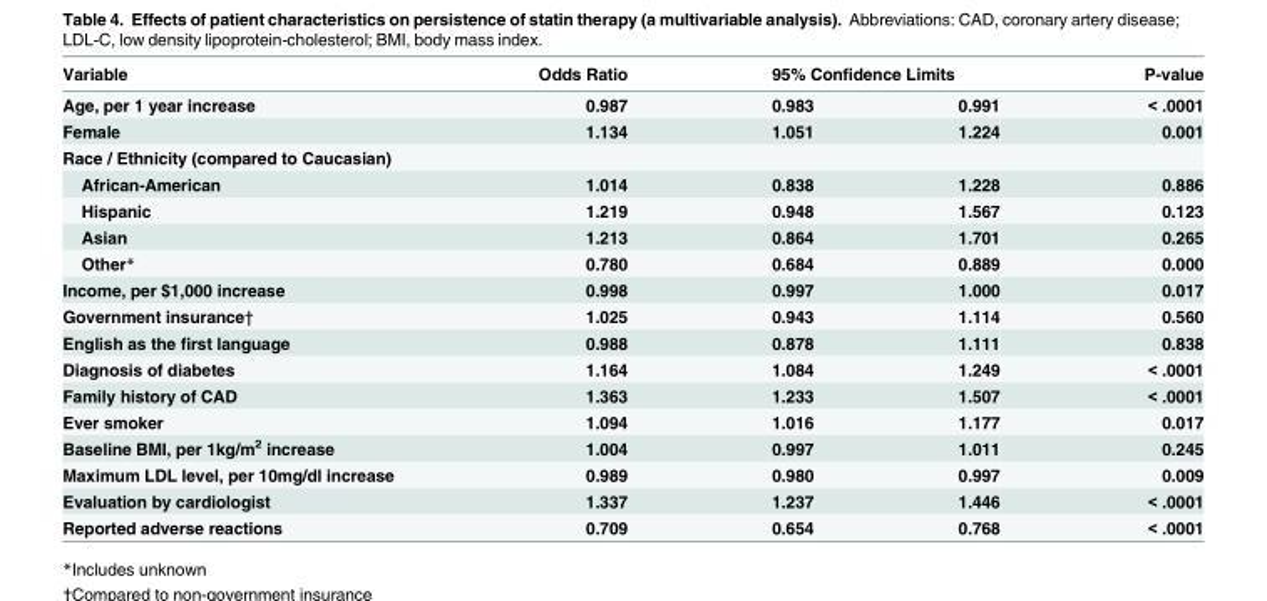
<table><thead><tr><td rowspan="2">Variable Age, per 1 year increase</td><td rowspan="2">Odds Ratio 0.987</td><td colspan="2">95% Confidence Limits</td><td rowspan="2">P-value &lt; .0001</td></tr><tr><td>0.983</td><td>0.991</td></tr></thead><tbody><tr><td>Female</td><td>1.134</td><td>1.051</td><td>1.224</td><td>0.001</td></tr><tr><td colspan="5">Race / Ethnicity (compared to Caucasian)</td></tr><tr><td>African-American</td><td>1.014</td><td>0.838</td><td>1.228</td><td>0.886</td></tr><tr><td>Hispanic</td><td>1.219</td><td>0.948</td><td>1.567</td><td>0.123</td></tr><tr><td>Asian</td><td>1.213</td><td>0.864</td><td>1.701</td><td>0.265</td></tr><tr><td>Other*</td><td>0.780</td><td>0.684</td><td>0.889</td><td>0.000</td></tr><tr><td>Income, per $1,000 increase</td><td>0.998</td><td>0.997</td><td>1.000</td><td>0.017</td></tr><tr><td>Government insurance†</td><td>1.025</td><td>0.943</td><td>1.114</td><td>0.560</td></tr><tr><td>English as the first language</td><td>0.988</td><td>0.878</td><td>1.111</td><td>0.838</td></tr><tr><td>Diagnosis of diabetes</td><td>1.164</td><td>1.084</td><td>1.249</td><td>&lt; .0001</td></tr><tr><td>Family history of CAD</td><td>1.363</td><td>1.233</td><td>1.507</td><td>&lt; .0001</td></tr><tr><td>Ever smoker</td><td>1.094</td><td>1.016</td><td>1.177</td><td>0.017</td></tr><tr><td>Baseline BMI, per 1kg/m<sup>2</sup> increase</td><td>1.004</td><td>0.997</td><td>1.011</td><td>0.245</td></tr><tr><td>Maximum LDL level, per 10mg/dl increase</td><td>0.989</td><td>0.980</td><td>0.997</td><td>0.009</td></tr><tr><td>Evaluation by cardiologist</td><td>1.337</td><td>1.237</td><td>1.446</td><td>&lt; .0001</td></tr><tr><td>Reported adverse reactions</td><td>0.709</td><td>0.654</td><td>0.768</td><td>&lt; .0001</td></tr></tbody></table>